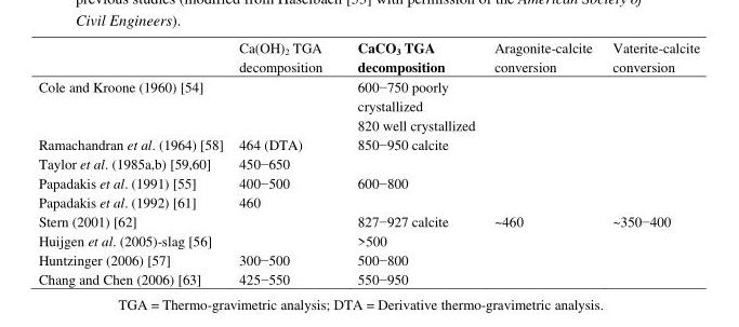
<table><thead><tr><td></td><td>Ca(OH)<sub>2</sub> TGA decomposition</td><td>CaCO<sub>3</sub> TGA decomposition</td><td>Aragonite-calcite conversion</td><td>Vaterite-calcite conversion</td></tr></thead><tbody><tr><td rowspan="2">Cole and Kroone (1960) [54]</td><td></td><td>600−750 poorly crystallized</td><td></td><td></td></tr><tr><td></td><td>820 well crystallized</td><td></td><td></td></tr><tr><td>Ramachandran et al. (1964) [58]</td><td>464 (DTA)</td><td>850−950 calcite</td><td></td><td></td></tr><tr><td>Taylor et al. (1985a,b) [59,60]</td><td>450−650</td><td></td><td></td><td></td></tr><tr><td>Papadakis et al. (1991) [55]</td><td>400−500</td><td>600−800</td><td></td><td></td></tr><tr><td>Papadakis et al. (1992) [61]</td><td>460</td><td></td><td></td><td></td></tr><tr><td>Stern (2001) [62]</td><td></td><td>827−927 calcite</td><td>~460</td><td>~350−400</td></tr><tr><td>Huijgen et al. (2005)-slag [56]</td><td></td><td>&gt;500</td><td></td><td></td></tr><tr><td>Huntzinger (2006) [57]</td><td>300−500</td><td>500−800</td><td></td><td></td></tr><tr><td>Chang and Chen (2006) [63]</td><td>425−550</td><td>550−950</td><td></td><td></td></tr></tbody></table>